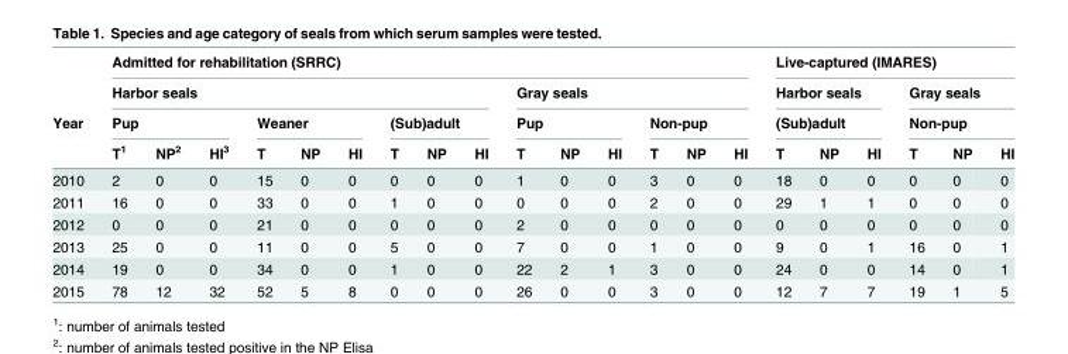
<table><thead><tr><td rowspan="4">Year</td><td colspan="15">Admitted for rehabilitation (SRRC)</td><td colspan="6">Live-captured (IMARES)</td></tr><tr><td colspan="9">Harbor seals</td><td colspan="6">Gray seals</td><td rowspan="2" colspan="3">Harbor seals (Sub)adult</td><td rowspan="2" colspan="3">Gray seals Non-pup</td></tr><tr><td colspan="3">Pup</td><td colspan="3">Weaner</td><td colspan="3">(Sub)adult</td><td colspan="3">Pup</td><td colspan="3">Non-pup</td></tr><tr><td>T<sup>1</sup></td><td>NP<sup>2</sup></td><td>HI<sup>3</sup></td><td>T</td><td>NP</td><td>HI</td><td>T</td><td>NP</td><td>HI</td><td>T</td><td>NP</td><td>HI</td><td>T</td><td>NP</td><td>HI</td><td>T</td><td>NP</td><td>HI</td><td>T</td><td>NP</td><td>HI</td></tr></thead><tbody><tr><td>2010</td><td>2</td><td>0</td><td>0</td><td>15</td><td>0</td><td>0</td><td>0</td><td>0</td><td>0</td><td>1</td><td>0</td><td>0</td><td>3</td><td>0</td><td>0</td><td>18</td><td>0</td><td>0</td><td>0</td><td>0</td><td>0</td></tr><tr><td>2011</td><td>16</td><td>0</td><td>0</td><td>33</td><td>0</td><td>0</td><td>1</td><td>0</td><td>0</td><td>0</td><td>0</td><td>0</td><td>2</td><td>0</td><td>0</td><td>29</td><td>1</td><td>1</td><td>0</td><td>0</td><td>0</td></tr><tr><td>2012</td><td>0</td><td>0</td><td>0</td><td>21</td><td>0</td><td>0</td><td>0</td><td>0</td><td>0</td><td>2</td><td>0</td><td>0</td><td>0</td><td>0</td><td>0</td><td>0</td><td>0</td><td>0</td><td>0</td><td>0</td><td>0</td></tr><tr><td>2013</td><td>25</td><td>0</td><td>0</td><td>11</td><td>0</td><td>0</td><td>5</td><td>0</td><td>0</td><td>7</td><td>0</td><td>0</td><td>1</td><td>0</td><td>0</td><td>9</td><td>0</td><td>1</td><td>16</td><td>0</td><td>1</td></tr><tr><td>2014</td><td>19</td><td>0</td><td>0</td><td>34</td><td>0</td><td>0</td><td>1</td><td>0</td><td>0</td><td>22</td><td>2</td><td>1</td><td>3</td><td>0</td><td>0</td><td>24</td><td>0</td><td>0</td><td>14</td><td>0</td><td>1</td></tr><tr><td>2015</td><td>78</td><td>12</td><td>32</td><td>52</td><td>5</td><td>8</td><td>0</td><td>0</td><td>0</td><td>26</td><td>0</td><td>0</td><td>3</td><td>0</td><td>0</td><td>12</td><td>7</td><td>7</td><td>19</td><td>1</td><td>5</td></tr></tbody></table>